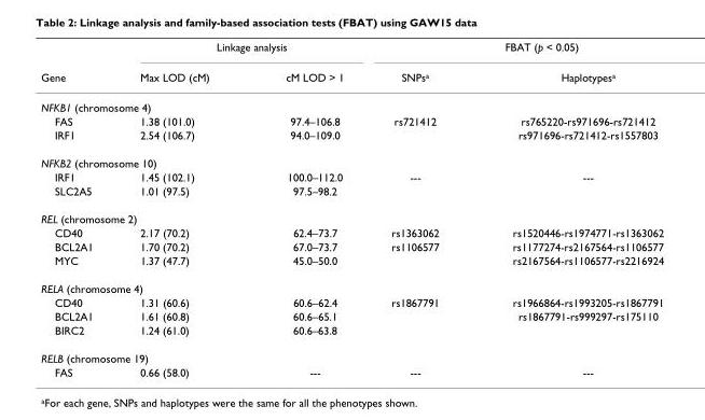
<table><thead><tr><td rowspan="2">Gene</td><td colspan="2">Linkage analysis</td><td colspan="2">FBAT (p &lt; 0.05)</td></tr><tr><td>Max LOD (cM)</td><td>cM LOD &gt; 1</td><td>SNPs<sup>a</sup></td><td>Haplotypes<sup>a</sup></td></tr></thead><tbody><tr><td colspan="5">NFKB1 (chromosome 4)</td></tr><tr><td>FAS</td><td>1.38 (101.0)</td><td>97.4–106.8</td><td>rs721412</td><td>rs765220-rs971696-rs721412</td></tr><tr><td>IRF1</td><td>2.54 (106.7)</td><td>94.0–109.0</td><td></td><td>rs971696-rs721412-rs1557803</td></tr><tr><td colspan="5">NFKB2 (chromosome 10)</td></tr><tr><td>IRF1</td><td>1.45 (102.1)</td><td>100.0–112.0</td><td>---</td><td>---</td></tr><tr><td>SLC2A5</td><td>1.01 (97.5)</td><td>97.5–98.2</td><td></td><td></td></tr><tr><td colspan="5">REL (chromosome 2)</td></tr><tr><td>CD40</td><td>2.17 (70.2)</td><td>62.4–73.7</td><td>rs1363062</td><td>rs1520446-rs1974771-rs1363062</td></tr><tr><td>BCL2A1</td><td>1.70 (70.2)</td><td>67.0–73.7</td><td>rs1106577</td><td>rs1177274-rs2167564-rs1106577</td></tr><tr><td>MYC</td><td>1.37 (47.7)</td><td>45.0–50.0</td><td></td><td>rs2167564-rs1106577-rs2216924</td></tr><tr><td colspan="5">RELA (chromosome 4)</td></tr><tr><td>CD40</td><td>1.31 (60.6)</td><td>60.6–62.4</td><td>rs1867791</td><td>rs1966864-rs1993205-rs1867791</td></tr><tr><td>BCL2A1</td><td>1.61 (60.8)</td><td>60.6–65.1</td><td></td><td>rs1867791-rs999297-rs175110</td></tr><tr><td>BIRC2</td><td>1.24 (61.0)</td><td>60.6–63.8</td><td></td><td></td></tr><tr><td colspan="5">RELB (chromosome 19)</td></tr><tr><td>FAS</td><td>0.66 (58.0)</td><td>---</td><td>---</td><td>---</td></tr></tbody></table>